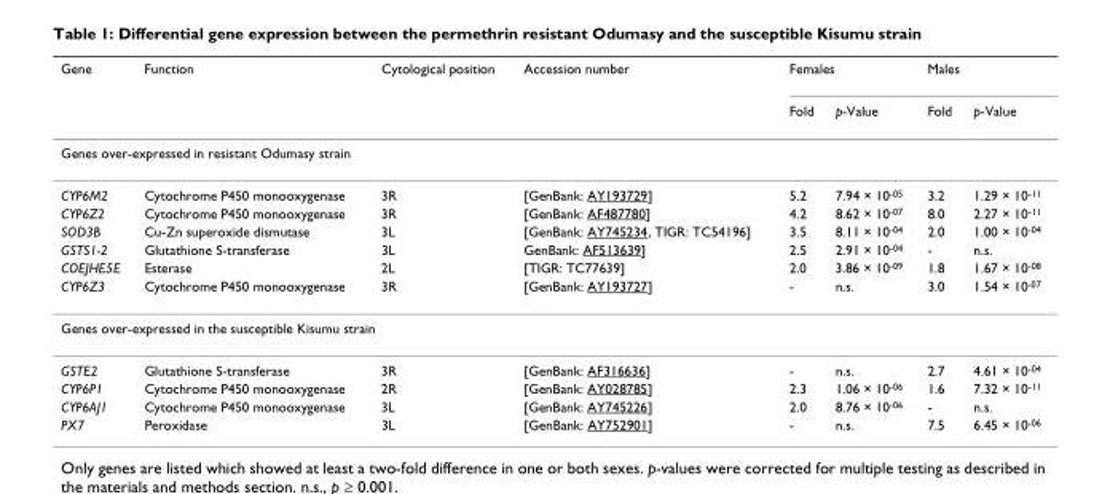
<table><thead><tr><td rowspan="2">Gene</td><td rowspan="2">Function</td><td rowspan="2">Cytological position</td><td rowspan="2">Accession number</td><td colspan="2">Females</td><td colspan="2">Males</td></tr><tr><td>Fold</td><td>p-Value</td><td>Fold</td><td>p-Value</td></tr></thead><tbody><tr><td colspan="8">Genes over-expressed in resistant Odumasy strain</td></tr><tr><td>CYP6M2</td><td>Cytochrome P450 monooxygenase</td><td>3R</td><td>[GenBank: AY193729]</td><td>5.2</td><td>7.94 × 10-05</td><td>3.2</td><td>1.29 × 10-11</td></tr><tr><td>CYP6Z2</td><td>Cytochrome P450 monooxygenase</td><td>3R</td><td>[GenBank: AF487780]</td><td>4.2</td><td>8.62 × 10-07</td><td>8.0</td><td>2.27 × 10-11</td></tr><tr><td>SOD3B</td><td>Cu-Zn superoxide dismutase</td><td>3L</td><td>[GenBank: AY745234, TIGR: TC54196]</td><td>3.5</td><td>8.11 × 10-04</td><td>2.0</td><td>1.00 × 10-04</td></tr><tr><td>GSTS1-2</td><td>Glutathione S-transferase</td><td>3L</td><td>GenBank: AF513639]</td><td>2.5</td><td>2.91 × 10-04</td><td>-</td><td>n.s.</td></tr><tr><td>COEJHE5E</td><td>Esterase</td><td>2L</td><td>[TIGR: TC77639]</td><td>2.0</td><td>3.86 × 10-09</td><td>1.8</td><td>1.67 × 10-08</td></tr><tr><td>CYP6Z3</td><td>Cytochrome P450 monooxygenase</td><td>3R</td><td>[GenBank: AY193727]</td><td>-</td><td>n.s.</td><td>3.0</td><td>1.54 × 10-07</td></tr><tr><td colspan="8">Genes over-expressed in the susceptible Kisumu strain</td></tr><tr><td>GSTE2</td><td>Glutathione S-transferase</td><td>3R</td><td>[GenBank: AF316636]</td><td>-</td><td>n.s.</td><td>2.7</td><td>4.61 × 10-04</td></tr><tr><td>CYP6P1</td><td>Cytochrome P450 monooxygenase</td><td>2R</td><td>[GenBank: AY028785]</td><td>2.3</td><td>1.06 × 10-06</td><td>1.6</td><td>7.32 × 10-11</td></tr><tr><td>CYP6AJ1</td><td>Cytochrome P450 monooxygenase</td><td>3L</td><td>[GenBank: AY745226]</td><td>2.0</td><td>8.76 × 10-06</td><td>-</td><td>n.s.</td></tr><tr><td>PX7</td><td>Peroxidase</td><td>3L</td><td>[GenBank: AY752901]</td><td>-</td><td>n.s.</td><td>7.5</td><td>6.45 × 10-06</td></tr></tbody></table>